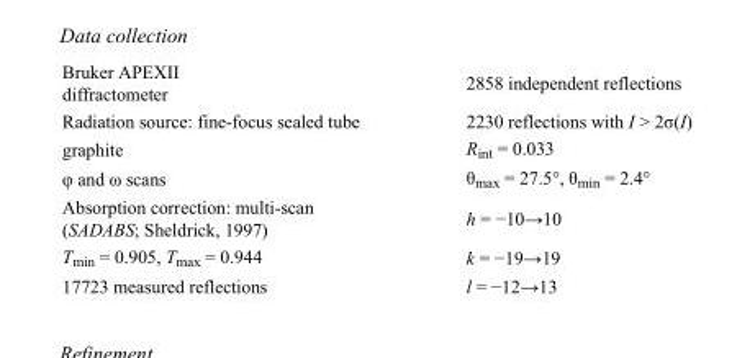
<table><tbody><tr><td>Bruker APEXII diffractometer</td><td>2858 independent reflections</td></tr><tr><td>Radiation source: fine-focus sealed tube</td><td>2230 reflections with I &gt; 2σ(I)</td></tr><tr><td>graphite</td><td>R<sub>int</sub> = 0.033</td></tr><tr><td>φ and ω scans</td><td>θ<sub>max</sub> = 27.5°, θ<sub>min</sub> = 2.4°</td></tr><tr><td>Absorption correction: multi-scan (SADABS; Sheldrick, 1997)</td><td>h = −10→10</td></tr><tr><td>T<sub>min</sub> = 0.905, T<sub>max</sub> = 0.944</td><td>k = −19→19</td></tr><tr><td>17723 measured reflections</td><td>l = −12→13</td></tr></tbody></table>